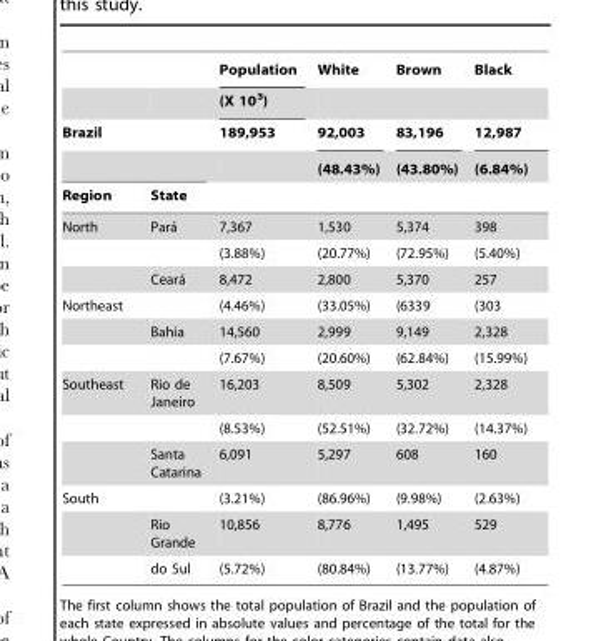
<table><thead><tr><td rowspan="2"></td><td rowspan="2"></td><td rowspan="5">Population (X 10<sup>3</sup>) 189,953</td><td rowspan="5">White 92,003 (48.43%)</td><td rowspan="5">Brown 83,196 (43.80%)</td><td rowspan="5">Black 12,987 (6.84%)</td></tr><tr></tr><tr><td colspan="2">Brazil</td></tr><tr><td rowspan="2">Region</td><td rowspan="2">State</td></tr><tr></tr></thead><tbody><tr><td rowspan="3">North</td><td>Para´</td><td>7,367</td><td>1,530</td><td>5,374</td><td>398</td></tr><tr><td></td><td>(3.88%)</td><td>(20.77%)</td><td>(72.95%)</td><td>(5.40%)</td></tr><tr><td>Ceara´</td><td>8,472</td><td>2,800</td><td>5,370</td><td>257</td></tr><tr><td rowspan="3">Northeast</td><td></td><td>(4.46%)</td><td>(33.05%)</td><td>(6339</td><td>(303</td></tr><tr><td>Bahia</td><td>14,560</td><td>2,999</td><td>9,149</td><td>2,328</td></tr><tr><td></td><td>(7.67%)</td><td>(20.60%)</td><td>(62.84%)</td><td>(15.99%)</td></tr><tr><td rowspan="3">Southeast</td><td>Rio de Janeiro</td><td>16,203</td><td>8,509</td><td>5,302</td><td>2,328</td></tr><tr><td></td><td>(8.53%)</td><td>(52.51%)</td><td>(32.72%)</td><td>(14.37%)</td></tr><tr><td>Santa Catarina</td><td>6,091</td><td>5,297</td><td>608</td><td>160</td></tr><tr><td rowspan="3">South</td><td></td><td>(3.21%)</td><td>(86.96%)</td><td>(9.98%)</td><td>(2.63%)</td></tr><tr><td>Rio Grande</td><td>10,856</td><td>8,776</td><td>1,495</td><td>529</td></tr><tr><td>do Sul</td><td>(5.72%)</td><td>(80.84%)</td><td>(13.77%)</td><td>(4.87%)</td></tr></tbody></table>